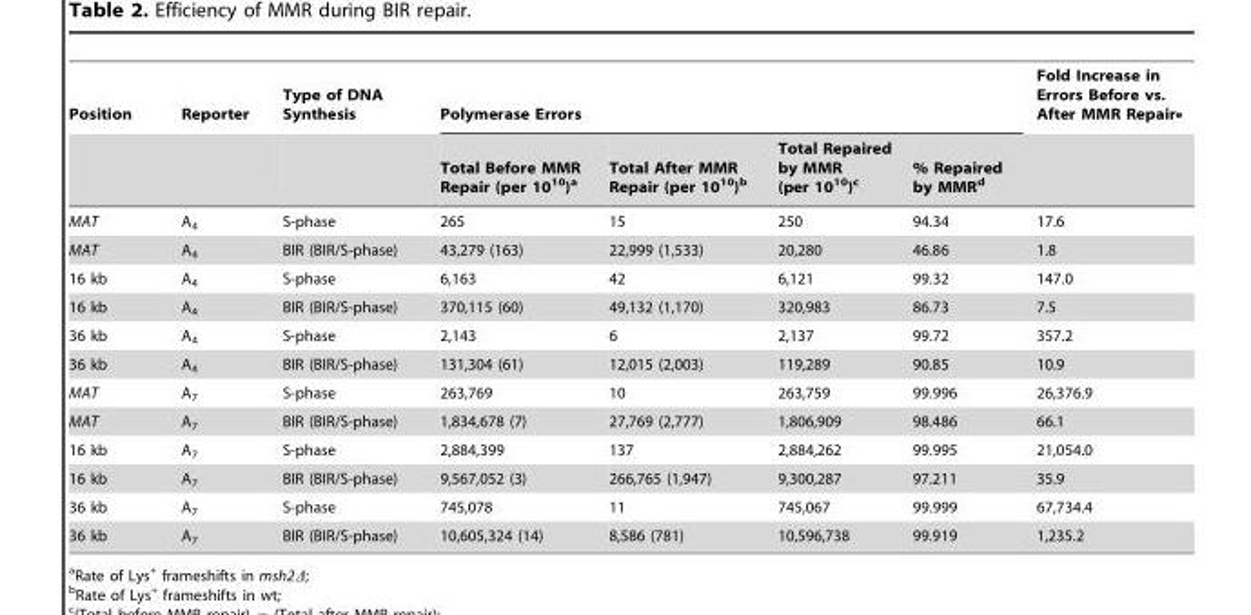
<table><thead><tr><td rowspan="2">Position</td><td rowspan="2">Reporter</td><td rowspan="2">Type of DNA Synthesis</td><td colspan="4">Polymerase Errors</td><td rowspan="2">Fold Increase in Errors Before vs. After MMR Repair<sup>e</sup></td></tr><tr><td>Total Before MMR Repair (per 10<sup>10</sup>)<sup>a</sup></td><td>Total After MMR Repair (per 10<sup>10</sup>)<sup>b</sup></td><td>Total Repaired by MMR (per 10<sup>10</sup>)<sup>c</sup></td><td>% Repaired by MMR<sup>d</sup></td></tr></thead><tbody><tr><td>MAT</td><td>A<sub>4</sub></td><td>S-phase</td><td>265</td><td>15</td><td>250</td><td>94.34</td><td>17.6</td></tr><tr><td>MAT</td><td>A<sub>4</sub></td><td>BIR (BIR/S-phase)</td><td>43,279 (163)</td><td>22,999 (1,533)</td><td>20,280</td><td>46.86</td><td>1.8</td></tr><tr><td>16 kb</td><td>A<sub>4</sub></td><td>S-phase</td><td>6,163</td><td>42</td><td>6,121</td><td>99.32</td><td>147.0</td></tr><tr><td>16 kb</td><td>A<sub>4</sub></td><td>BIR (BIR/S-phase)</td><td>370,115 (60)</td><td>49,132 (1,170)</td><td>320,983</td><td>86.73</td><td>7.5</td></tr><tr><td>36 kb</td><td>A<sub>4</sub></td><td>S-phase</td><td>2,143</td><td>6</td><td>2,137</td><td>99.72</td><td>357.2</td></tr><tr><td>36 kb</td><td>A<sub>4</sub></td><td>BIR (BIR/S-phase)</td><td>131,304 (61)</td><td>12,015 (2,003)</td><td>119,289</td><td>90.85</td><td>10.9</td></tr><tr><td>MAT</td><td>A<sub>7</sub></td><td>S-phase</td><td>263,769</td><td>10</td><td>263,759</td><td>99.996</td><td>26,376.9</td></tr><tr><td>MAT</td><td>A<sub>7</sub></td><td>BIR (BIR/S-phase)</td><td>1,834,678 (7)</td><td>27,769 (2,777)</td><td>1,806,909</td><td>98.486</td><td>66.1</td></tr><tr><td>16 kb</td><td>A<sub>7</sub></td><td>S-phase</td><td>2,884,399</td><td>137</td><td>2,884,262</td><td>99.995</td><td>21,054.0</td></tr><tr><td>16 kb</td><td>A<sub>7</sub></td><td>BIR (BIR/S-phase)</td><td>9,567,052 (3)</td><td>266,765 (1,947)</td><td>9,300,287</td><td>97.211</td><td>35.9</td></tr><tr><td>36 kb</td><td>A<sub>7</sub></td><td>S-phase</td><td>745,078</td><td>11</td><td>745,067</td><td>99.999</td><td>67,734.4</td></tr><tr><td>36 kb</td><td>A<sub>7</sub></td><td>BIR (BIR/S-phase)</td><td>10,605,324 (14)</td><td>8,586 (781)</td><td>10,596,738</td><td>99.919</td><td>1,235.2</td></tr></tbody></table>